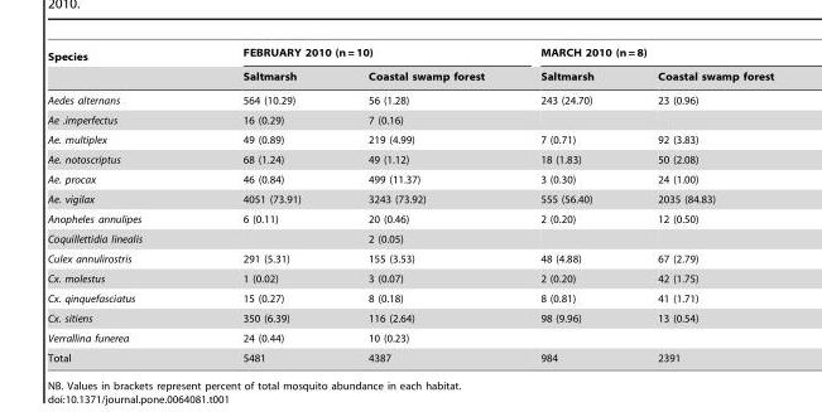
<table><thead><tr><td rowspan="2">Species</td><td colspan="2">FEBRUARY 2010 (n = 10)</td><td colspan="2">MARCH 2010 (n = 8)</td></tr><tr><td>Saltmarsh</td><td>Coastal swamp forest</td><td>Saltmarsh</td><td>Coastal swamp forest</td></tr></thead><tbody><tr><td>Aedes alternans</td><td>564 (10.29)</td><td>56 (1.28)</td><td>243 (24.70)</td><td>23 (0.96)</td></tr><tr><td>Ae .imperfectus</td><td>16 (0.29)</td><td>7 (0.16)</td><td></td><td></td></tr><tr><td>Ae. multiplex</td><td>49 (0.89)</td><td>219 (4.99)</td><td>7 (0.71)</td><td>92 (3.83)</td></tr><tr><td>Ae. notoscriptus</td><td>68 (1.24)</td><td>49 (1.12)</td><td>18 (1.83)</td><td>50 (2.08)</td></tr><tr><td>Ae. procax</td><td>46 (0.84)</td><td>499 (11.37)</td><td>3 (0.30)</td><td>24 (1.00)</td></tr><tr><td>Ae. vigilax</td><td>4051 (73.91)</td><td>3243 (73.92)</td><td>555 (56.40)</td><td>2035 (84.83)</td></tr><tr><td>Anopheles annulipes</td><td>6 (0.11)</td><td>20 (0.46)</td><td>2 (0.20)</td><td>12 (0.50)</td></tr><tr><td>Coquillettidia linealis</td><td></td><td>2 (0.05)</td><td></td><td></td></tr><tr><td>Culex annulirostris</td><td>291 (5.31)</td><td>155 (3.53)</td><td>48 (4.88)</td><td>67 (2.79)</td></tr><tr><td>Cx. molestus</td><td>1 (0.02)</td><td>3 (0.07)</td><td>2 (0.20)</td><td>42 (1.75)</td></tr><tr><td>Cx. qinquefasciatus</td><td>15 (0.27)</td><td>8 (0.18)</td><td>8 (0.81)</td><td>41 (1.71)</td></tr><tr><td>Cx. sitiens</td><td>350 (6.39)</td><td>116 (2.64)</td><td>98 (9.96)</td><td>13 (0.54)</td></tr><tr><td>Verrallina funerea</td><td>24 (0.44)</td><td>10 (0.23)</td><td></td><td></td></tr><tr><td>Total</td><td>5481</td><td>4387</td><td>984</td><td>2391</td></tr></tbody></table>